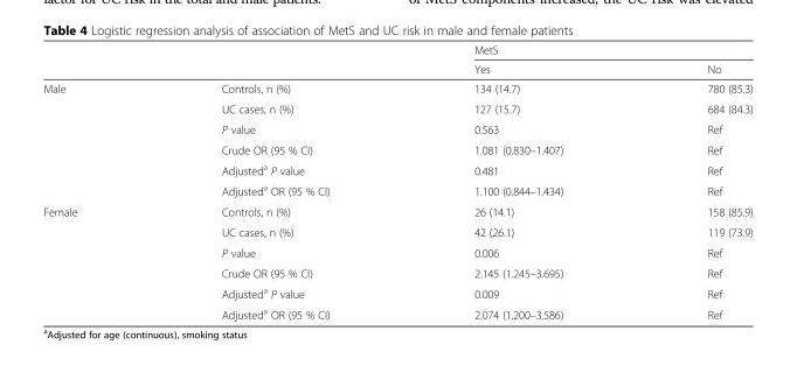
<table><thead><tr><td rowspan="2"></td><td rowspan="2"></td><td colspan="2">MetS</td></tr><tr><td>Yes</td><td>No</td></tr></thead><tbody><tr><td rowspan="6">Male</td><td>Controls, n (%)</td><td>134 (14.7)</td><td>780 (85.3)</td></tr><tr><td>UC cases, n (%)</td><td>127 (15.7)</td><td>684 (84.3)</td></tr><tr><td>P value</td><td>0.563</td><td>Ref</td></tr><tr><td>Crude OR (95 % CI)</td><td>1.081 (0.830–1.407)</td><td>Ref</td></tr><tr><td>Adjusted<sup>a</sup> P value</td><td>0.481</td><td>Ref</td></tr><tr><td>Adjusted<sup>a</sup> OR (95 % CI)</td><td>1.100 (0.844–1.434)</td><td>Ref</td></tr><tr><td rowspan="6">Female</td><td>Controls, n (%)</td><td>26 (14.1)</td><td>158 (85.9)</td></tr><tr><td>UC cases, n (%)</td><td>42 (26.1)</td><td>119 (73.9)</td></tr><tr><td>P value</td><td>0.006</td><td>Ref</td></tr><tr><td>Crude OR (95 % CI)</td><td>2.145 (1.245–3.695)</td><td>Ref</td></tr><tr><td>Adjusted<sup>a</sup> P value</td><td>0.009</td><td>Ref</td></tr><tr><td>Adjusted<sup>a</sup> OR (95 % CI)</td><td>2.074 (1.200–3.586)</td><td>Ref</td></tr></tbody></table>